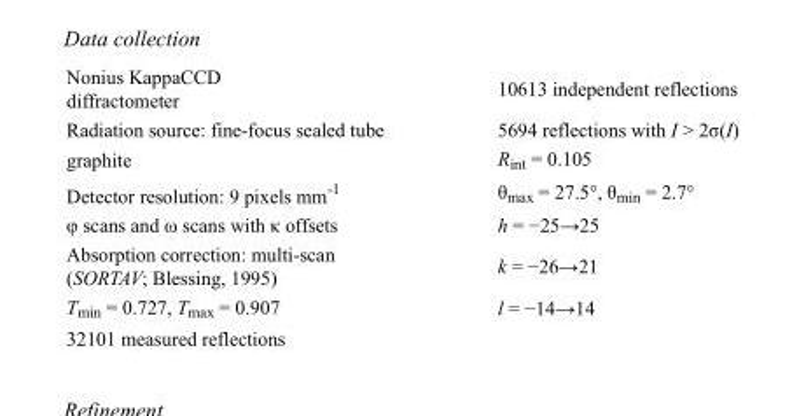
<table><tbody><tr><td>Nonius KappaCCD diffractometer</td><td>10613 independent reflections</td></tr><tr><td>Radiation source: fine-focus sealed tube</td><td>5694 reflections with I &gt; 2σ(I)</td></tr><tr><td>graphite</td><td>R<sub>int</sub> = 0.105</td></tr><tr><td>Detector resolution: 9 pixels mm<sup>-1</sup></td><td>θ<sub>max</sub> = 27.5°, θ<sub>min</sub> = 2.7°</td></tr><tr><td>φ scans and ω scans with κ offsets</td><td>h = −25→25</td></tr><tr><td>Absorption correction: multi-scan (SORTAV; Blessing, 1995)</td><td>k = −26→21</td></tr><tr><td>T<sub>min</sub> = 0.727, T<sub>max</sub> = 0.907</td><td>l = −14→14</td></tr><tr><td>32101 measured reflections</td><td></td></tr></tbody></table>